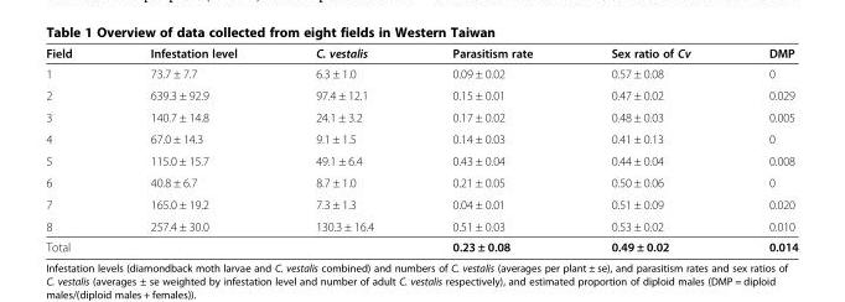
<table><thead><tr><td>Field</td><td>Infestation level</td><td>C. vestalis</td><td>Parasitism rate</td><td>Sex ratio of Cv</td><td>DMP</td></tr></thead><tbody><tr><td>1</td><td>73.7 ± 7.7</td><td>6.3 ± 1.0</td><td>0.09 ± 0.02</td><td>0.57 ± 0.08</td><td>0</td></tr><tr><td>2</td><td>639.3 ± 92.9</td><td>97.4 ± 12.1</td><td>0.15 ± 0.01</td><td>0.47 ± 0.02</td><td>0.029</td></tr><tr><td>3</td><td>140.7 ± 14.8</td><td>24.1 ± 3.2</td><td>0.17 ± 0.02</td><td>0.48 ± 0.03</td><td>0.005</td></tr><tr><td>4</td><td>67.0 ± 14.3</td><td>9.1 ± 1.5</td><td>0.14 ± 0.03</td><td>0.41 ± 0.13</td><td>0</td></tr><tr><td>5</td><td>115.0 ± 15.7</td><td>49.1 ± 6.4</td><td>0.43 ± 0.04</td><td>0.44 ± 0.04</td><td>0.008</td></tr><tr><td>6</td><td>40.8 ± 6.7</td><td>8.7 ± 1.0</td><td>0.21 ± 0.05</td><td>0.50 ± 0.06</td><td>0</td></tr><tr><td>7</td><td>165.0 ± 19.2</td><td>7.3 ± 1.3</td><td>0.04 ± 0.01</td><td>0.51 ± 0.09</td><td>0.020</td></tr><tr><td>8</td><td>257.4 ± 30.0</td><td>130.3 ± 16.4</td><td>0.51 ± 0.03</td><td>0.53 ± 0.02</td><td>0.010</td></tr><tr><td>Total</td><td></td><td></td><td>0.23 ± 0.08</td><td>0.49 ± 0.02</td><td>0.014</td></tr></tbody></table>